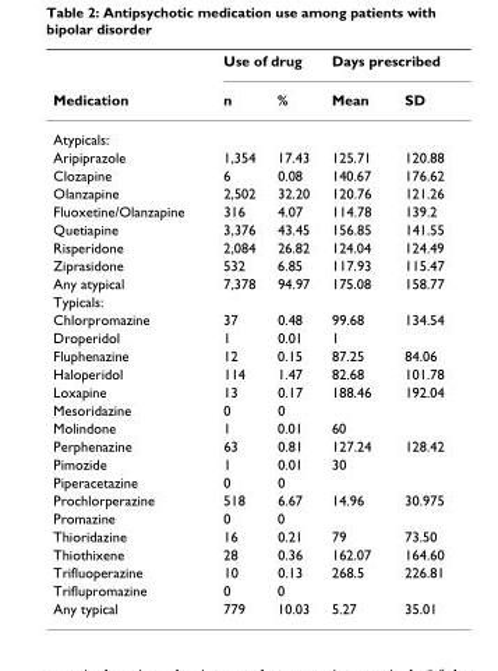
<table><thead><tr><td rowspan="2">Medication</td><td colspan="2">Use of drug</td><td colspan="2">Days prescribed</td></tr><tr><td>n</td><td>%</td><td>Mean</td><td>SD</td></tr></thead><tbody><tr><td colspan="5">Atypicals:</td></tr><tr><td>Aripiprazole</td><td>1,354</td><td>17.43</td><td>125.71</td><td>120.88</td></tr><tr><td>Clozapine</td><td>6</td><td>0.08</td><td>140.67</td><td>176.62</td></tr><tr><td>Olanzapine</td><td>2,502</td><td>32.20</td><td>120.76</td><td>121.26</td></tr><tr><td>Fluoxetine/Olanzapine</td><td>316</td><td>4.07</td><td>114.78</td><td>139.2</td></tr><tr><td>Quetiapine</td><td>3,376</td><td>43.45</td><td>156.85</td><td>141.55</td></tr><tr><td>Risperidone</td><td>2,084</td><td>26.82</td><td>124.04</td><td>124.49</td></tr><tr><td>Ziprasidone</td><td>532</td><td>6.85</td><td>117.93</td><td>115.47</td></tr><tr><td>Any atypical</td><td>7,378</td><td>94.97</td><td>175.08</td><td>158.77</td></tr><tr><td colspan="5">Typicals:</td></tr><tr><td>Chlorpromazine</td><td>37</td><td>0.48</td><td>99.68</td><td>134.54</td></tr><tr><td>Droperidol</td><td>1</td><td>0.01</td><td>1</td><td></td></tr><tr><td>Fluphenazine</td><td>12</td><td>0.15</td><td>87.25</td><td>84.06</td></tr><tr><td>Haloperidol</td><td>114</td><td>1.47</td><td>82.68</td><td>101.78</td></tr><tr><td>Loxapine</td><td>13</td><td>0.17</td><td>188.46</td><td>192.04</td></tr><tr><td>Mesoridazine</td><td>0</td><td>0</td><td></td><td></td></tr><tr><td>Molindone</td><td>1</td><td>0.01</td><td>60</td><td></td></tr><tr><td>Perphenazine</td><td>63</td><td>0.81</td><td>127.24</td><td>128.42</td></tr><tr><td>Pimozide</td><td>1</td><td>0.01</td><td>30</td><td></td></tr><tr><td>Piperacetazine</td><td>0</td><td>0</td><td></td><td></td></tr><tr><td>Prochlorperazine</td><td>518</td><td>6.67</td><td>14.96</td><td>30.975</td></tr><tr><td>Promazine</td><td>0</td><td>0</td><td></td><td></td></tr><tr><td>Thioridazine</td><td>16</td><td>0.21</td><td>79</td><td>73.50</td></tr><tr><td>Thiothixene</td><td>28</td><td>0.36</td><td>162.07</td><td>164.60</td></tr><tr><td>Trifluoperazine</td><td>10</td><td>0.13</td><td>268.5</td><td>226.81</td></tr><tr><td>Triflupromazine</td><td>0</td><td>0</td><td></td><td></td></tr><tr><td>Any typical</td><td>779</td><td>10.03</td><td>5.27</td><td>35.01</td></tr></tbody></table>